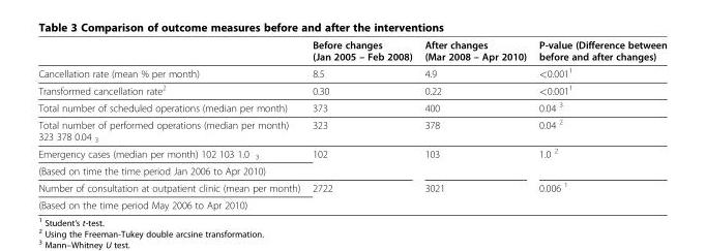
<table><thead><tr><td></td><td>Before changes (Jan 2005 – Feb 2008)</td><td>After changes (Mar 2008 – Apr 2010)</td><td>P-value (Difference between before and after changes)</td></tr></thead><tbody><tr><td>Cancellation rate (mean % per month)</td><td>8.5</td><td>4.9</td><td>&lt;0.001<sup>1</sup></td></tr><tr><td>Transformed cancellation rate<sup>2</sup></td><td>0.30</td><td>0.22</td><td>&lt;0.001<sup>1</sup></td></tr><tr><td>Total number of scheduled operations (median per month)</td><td>373</td><td>400</td><td>0.04 <sup>3</sup></td></tr><tr><td>Total number of performed operations (median per month) 323 378 0.04 <sub>3</sub></td><td>323</td><td>378</td><td>0.04 <sup>2</sup></td></tr><tr><td>Emergency cases (median per month) 102 103 1.0 <sub>3</sub></td><td rowspan="2">102</td><td rowspan="2">103</td><td rowspan="2">1.0 <sup>2</sup></td></tr><tr><td>(Based on time the time period Jan 2006 to Apr 2010)</td></tr><tr><td>Number of consultation at outpatient clinic (mean per month)</td><td rowspan="2">2722</td><td rowspan="2">3021</td><td rowspan="2">0.006 <sup>1</sup></td></tr><tr><td>(Based on the time period May 2006 to Apr 2010)</td></tr></tbody></table>